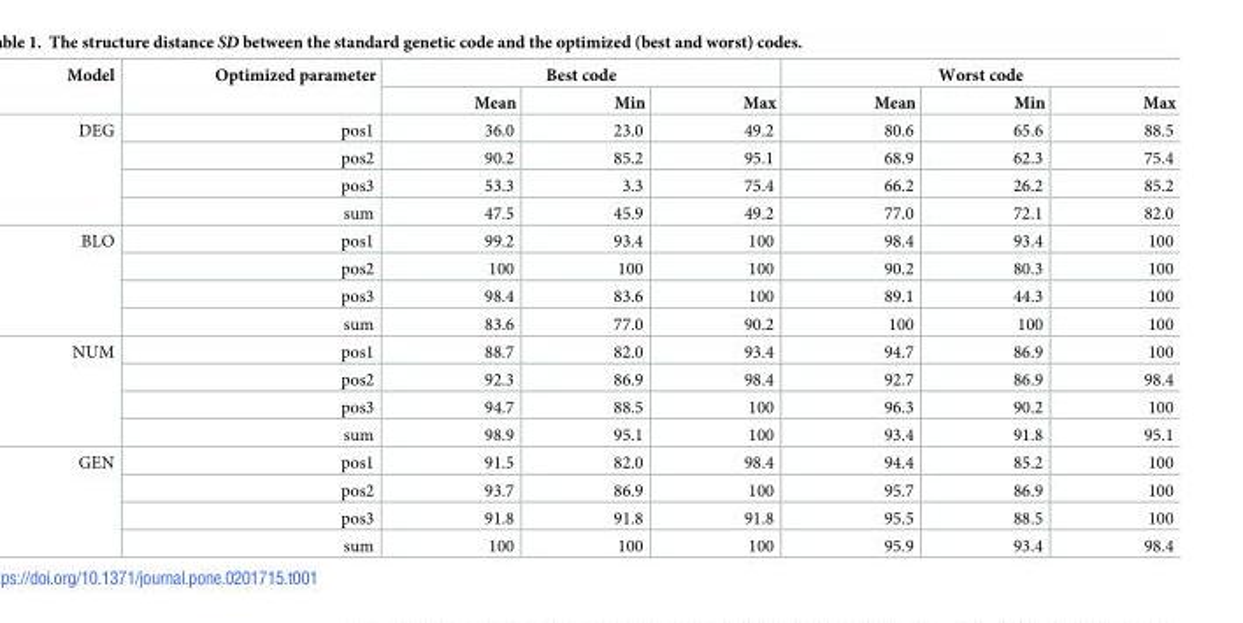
<table><thead><tr><td rowspan="2">Model</td><td rowspan="2">Optimized parameter</td><td colspan="3">Best code</td><td colspan="3">Worst code</td></tr><tr><td>Mean</td><td>Min</td><td>Max</td><td>Mean</td><td>Min</td><td>Max</td></tr></thead><tbody><tr><td rowspan="4">DEG</td><td>pos1</td><td>36.0</td><td>23.0</td><td>49.2</td><td>80.6</td><td>65.6</td><td>88.5</td></tr><tr><td>pos2</td><td>90.2</td><td>85.2</td><td>95.1</td><td>68.9</td><td>62.3</td><td>75.4</td></tr><tr><td>pos3</td><td>53.3</td><td>3.3</td><td>75.4</td><td>66.2</td><td>26.2</td><td>85.2</td></tr><tr><td>sum</td><td>47.5</td><td>45.9</td><td>49.2</td><td>77.0</td><td>72.1</td><td>82.0</td></tr><tr><td rowspan="4">BLO</td><td>pos1</td><td>99.2</td><td>93.4</td><td>100</td><td>98.4</td><td>93.4</td><td>100</td></tr><tr><td>pos2</td><td>100</td><td>100</td><td>100</td><td>90.2</td><td>80.3</td><td>100</td></tr><tr><td>pos3</td><td>98.4</td><td>83.6</td><td>100</td><td>89.1</td><td>44.3</td><td>100</td></tr><tr><td>sum</td><td>83.6</td><td>77.0</td><td>90.2</td><td>100</td><td>100</td><td>100</td></tr><tr><td rowspan="4">NUM</td><td>pos1</td><td>88.7</td><td>82.0</td><td>93.4</td><td>94.7</td><td>86.9</td><td>100</td></tr><tr><td>pos2</td><td>92.3</td><td>86.9</td><td>98.4</td><td>92.7</td><td>86.9</td><td>98.4</td></tr><tr><td>pos3</td><td>94.7</td><td>88.5</td><td>100</td><td>96.3</td><td>90.2</td><td>100</td></tr><tr><td>sum</td><td>98.9</td><td>95.1</td><td>100</td><td>93.4</td><td>91.8</td><td>95.1</td></tr><tr><td rowspan="4">GEN</td><td>pos1</td><td>91.5</td><td>82.0</td><td>98.4</td><td>94.4</td><td>85.2</td><td>100</td></tr><tr><td>pos2</td><td>93.7</td><td>86.9</td><td>100</td><td>95.7</td><td>86.9</td><td>100</td></tr><tr><td>pos3</td><td>91.8</td><td>91.8</td><td>91.8</td><td>95.5</td><td>88.5</td><td>100</td></tr><tr><td>sum</td><td>100</td><td>100</td><td>100</td><td>95.9</td><td>93.4</td><td>98.4</td></tr></tbody></table>